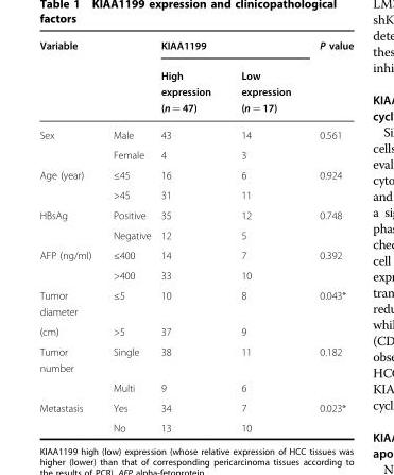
<table><thead><tr><td rowspan="2">Variable</td><td rowspan="2"></td><td colspan="2">KIAA1199</td><td rowspan="2">P value</td></tr><tr><td>High expression (n = 47)</td><td>Low expression (n = 17)</td></tr></thead><tbody><tr><td rowspan="2">Sex</td><td>Male</td><td>43</td><td>14</td><td rowspan="2">0.561</td></tr><tr><td>Female</td><td>4</td><td>3</td></tr><tr><td rowspan="2">Age (year)</td><td>≤45</td><td>16</td><td>6</td><td rowspan="2">0.924</td></tr><tr><td>&gt;45</td><td>31</td><td>11</td></tr><tr><td rowspan="2">HBsAg</td><td>Positive</td><td>35</td><td>12</td><td rowspan="2">0.748</td></tr><tr><td>Negative</td><td>12</td><td>5</td></tr><tr><td rowspan="2">AFP (ng/ml)</td><td>≤400</td><td>14</td><td>7</td><td rowspan="2">0.392</td></tr><tr><td>&gt;400</td><td>33</td><td>10</td></tr><tr><td>Tumor diameter</td><td>≤5</td><td>10</td><td>8</td><td rowspan="2">0.043*</td></tr><tr><td>(cm)</td><td>&gt;5</td><td>37</td><td>9</td></tr><tr><td rowspan="2">Tumor number</td><td>Single</td><td>38</td><td>11</td><td rowspan="2">0.182</td></tr><tr><td>Multi</td><td>9</td><td>6</td></tr><tr><td rowspan="2">Metastasis</td><td>Yes</td><td>34</td><td>7</td><td rowspan="2">0.023*</td></tr><tr><td>No</td><td>13</td><td>10</td></tr></tbody></table>